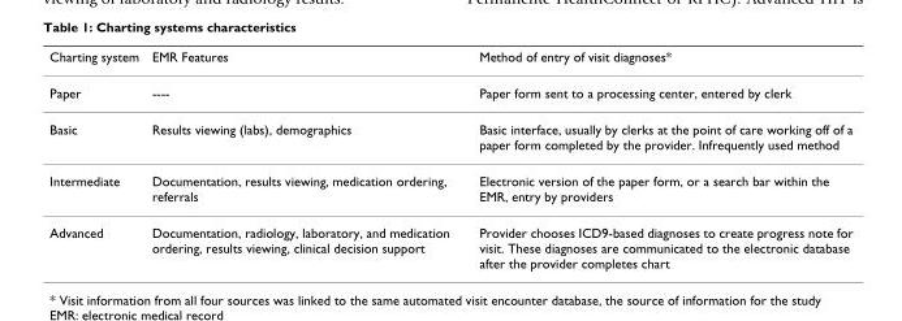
<table><thead><tr><td>Charting system</td><td>EMR Features</td><td>Method of entry of visit diagnoses*</td></tr></thead><tbody><tr><td>Paper</td><td>----</td><td>Paper form sent to a processing center, entered by clerk</td></tr><tr><td>Basic</td><td>Results viewing (labs), demographics</td><td>Basic interface, usually by clerks at the point of care working off of a paper form completed by the provider. Infrequently used method</td></tr><tr><td>Intermediate</td><td>Documentation, results viewing, medication ordering, referrals</td><td>Electronic version of the paper form, or a search bar within the EMR, entry by providers</td></tr><tr><td>Advanced</td><td>Documentation, radiology, laboratory, and medication ordering, results viewing, clinical decision support</td><td>Provider chooses ICD9-based diagnoses to create progress note for visit. These diagnoses are communicated to the electronic database after the provider completes chart</td></tr></tbody></table>